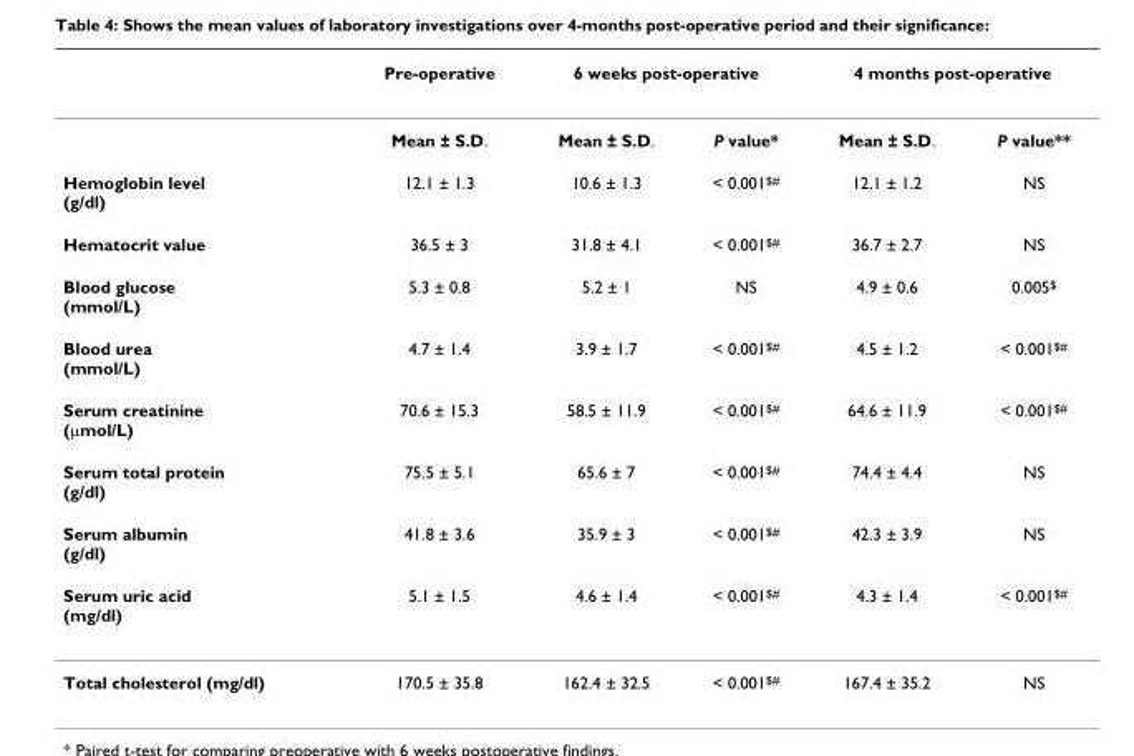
<table><thead><tr><td rowspan="2"></td><td rowspan="2">Pre-operative Mean ± S.D.</td><td colspan="2">6 weeks post-operative</td><td colspan="2">4 months post-operative</td></tr><tr><td>Mean ± S.D.</td><td>P value*</td><td>Mean ± S.D.</td><td>P value**</td></tr></thead><tbody><tr><td>Hemoglobin level (g/dl)</td><td>12.1 ± 1.3</td><td>10.6 ± 1.3</td><td>&lt; 0.001<sup>$#</sup></td><td>12.1 ± 1.2</td><td>NS</td></tr><tr><td>Hematocrit value</td><td>36.5 ± 3</td><td>31.8 ± 4.1</td><td>&lt; 0.001<sup>$#</sup></td><td>36.7 ± 2.7</td><td>NS</td></tr><tr><td>Blood glucose (mmol/L)</td><td>5.3 ± 0.8</td><td>5.2 ± 1</td><td>NS</td><td>4.9 ± 0.6</td><td>0.005<sup>$</sup></td></tr><tr><td>Blood urea (mmol/L)</td><td>4.7 ± 1.4</td><td>3.9 ± 1.7</td><td>&lt; 0.001<sup>$#</sup></td><td>4.5 ± 1.2</td><td>&lt; 0.001<sup>$#</sup></td></tr><tr><td>Serum creatinine (μmol/L)</td><td>70.6 ± 15.3</td><td>58.5 ± 11.9</td><td>&lt; 0.001<sup>$#</sup></td><td>64.6 ± 11.9</td><td>&lt; 0.001<sup>$#</sup></td></tr><tr><td>Serum total protein (g/dl)</td><td>75.5 ± 5.1</td><td>65.6 ± 7</td><td>&lt; 0.001<sup>$#</sup></td><td>74.4 ± 4.4</td><td>NS</td></tr><tr><td>Serum albumin (g/dl)</td><td>41.8 ± 3.6</td><td>35.9 ± 3</td><td>&lt; 0.001<sup>$#</sup></td><td>42.3 ± 3.9</td><td>NS</td></tr><tr><td>Serum uric acid (mg/dl)</td><td>5.1 ± 1.5</td><td>4.6 ± 1.4</td><td>&lt; 0.001<sup>$#</sup></td><td>4.3 ± 1.4</td><td>&lt; 0.001<sup>$#</sup></td></tr><tr><td>Total cholesterol (mg/dl)</td><td>170.5 ± 35.8</td><td>162.4 ± 32.5</td><td>&lt; 0.001<sup>$#</sup></td><td>167.4 ± 35.2</td><td>NS</td></tr></tbody></table>